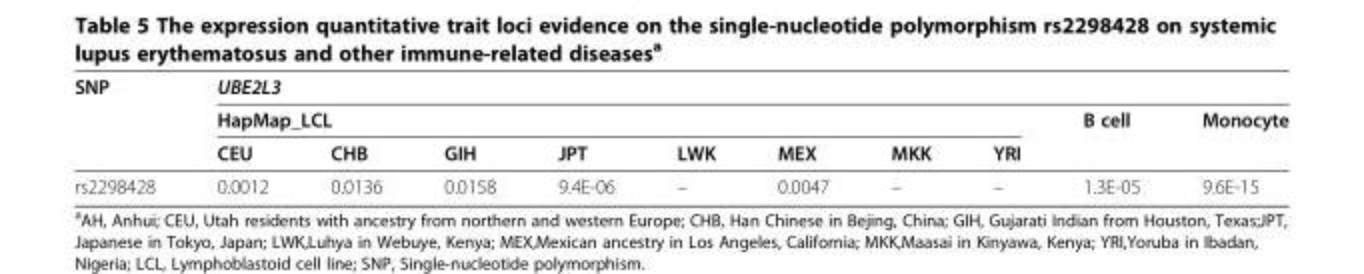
<table><thead><tr><td rowspan="3">SNP</td><td colspan="10">UBE2L3</td></tr><tr><td colspan="8">HapMap_LCL</td><td rowspan="2">B cell</td><td rowspan="2">Monocyte</td></tr><tr><td>CEU</td><td>CHB</td><td>GIH</td><td>JPT</td><td>LWK</td><td>MEX</td><td>MKK</td><td>YRI</td></tr></thead><tbody><tr><td>rs2298428</td><td>0.0012</td><td>0.0136</td><td>0.0158</td><td>9.4E-06</td><td>–</td><td>0.0047</td><td>–</td><td>–</td><td>1.3E-05</td><td>9.6E-15</td></tr></tbody></table>